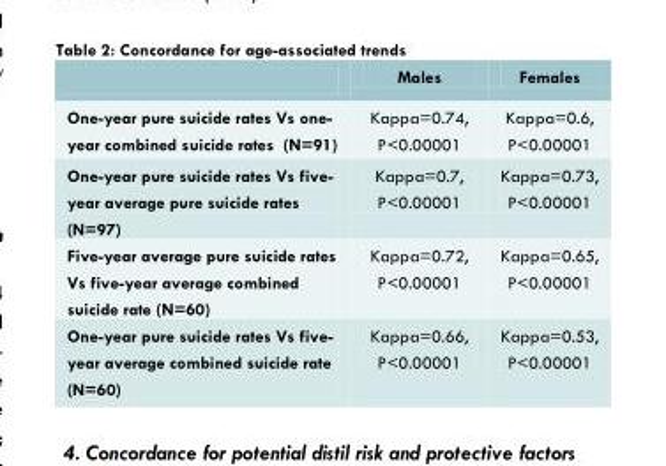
<table><thead><tr><td></td><td>Males</td><td>Females</td></tr></thead><tbody><tr><td>One-year pure suicide rates Vs one- year combined suicide rates (N=91)</td><td>Kappa=0.74, P&lt;0.00001</td><td>Kappa=0.6, P&lt;0.00001</td></tr><tr><td>One-year pure suicide rates Vs five- year average pure suicide rates (N=97)</td><td>Kappa=0.7, P&lt;0.00001</td><td>Kappa=0.73, P&lt;0.00001</td></tr><tr><td>Five-year average pure suicide rates Vs five-year average combined suicide rate (N=60)</td><td>Kappa=0.72, P&lt;0.00001</td><td>Kappa=0.65, P&lt;0.00001</td></tr><tr><td>One-year pure suicide rates Vs five- year average combined suicide rate (N=60)</td><td>Kappa=0.66, P&lt;0.00001</td><td>Kappa=0.53, P&lt;0.00001</td></tr></tbody></table>